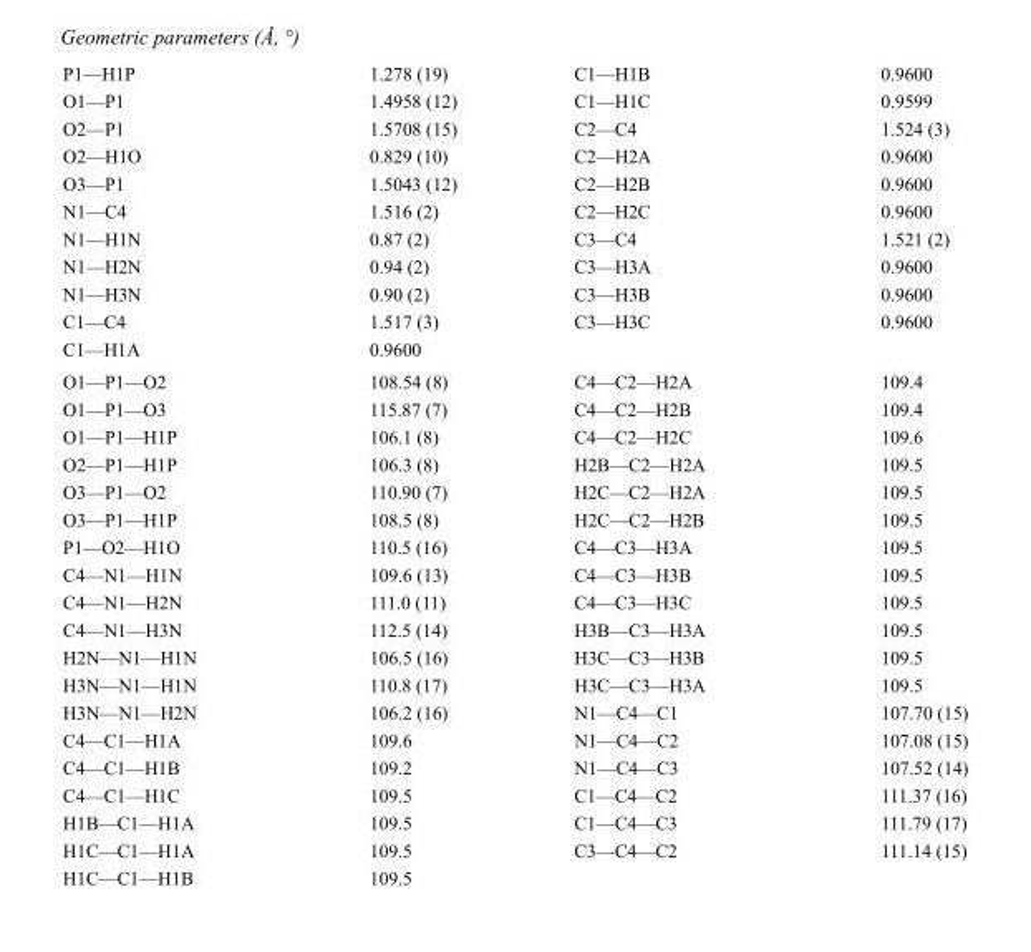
<table><tbody><tr><td>P1—H1P</td><td>1.278 (19)</td><td>C1—H1B</td><td>0.9600</td></tr><tr><td>O1—P1</td><td>1.4958 (12)</td><td>C1—H1C</td><td>0.9599</td></tr><tr><td>O2—P1</td><td>1.5708 (15)</td><td>C2—C4</td><td>1.524 (3)</td></tr><tr><td>O2—H1O</td><td>0.829 (10)</td><td>C2—H2A</td><td>0.9600</td></tr><tr><td>O3—P1</td><td>1.5043 (12)</td><td>C2—H2B</td><td>0.9600</td></tr><tr><td>N1—C4</td><td>1.516 (2)</td><td>C2—H2C</td><td>0.9600</td></tr><tr><td>N1—H1N</td><td>0.87 (2)</td><td>C3—C4</td><td>1.521 (2)</td></tr><tr><td>N1—H2N</td><td>0.94 (2)</td><td>C3—H3A</td><td>0.9600</td></tr><tr><td>N1—H3N</td><td>0.90 (2)</td><td>C3—H3B</td><td>0.9600</td></tr><tr><td>C1—C4</td><td>1.517 (3)</td><td>C3—H3C</td><td>0.9600</td></tr><tr><td>C1—H1A</td><td>0.9600</td><td></td><td></td></tr><tr><td>O1—P1—O2</td><td>108.54 (8)</td><td>C4—C2—H2A</td><td>109.4</td></tr><tr><td>O1—P1—O3</td><td>115.87 (7)</td><td>C4—C2—H2B</td><td>109.4</td></tr><tr><td>O1—P1—H1P</td><td>106.1 (8)</td><td>C4—C2—H2C</td><td>109.6</td></tr><tr><td>O2—P1—H1P</td><td>106.3 (8)</td><td>H2B—C2—H2A</td><td>109.5</td></tr><tr><td>O3—P1—O2</td><td>110.90 (7)</td><td>H2C—C2—H2A</td><td>109.5</td></tr><tr><td>O3—P1—H1P</td><td>108.5 (8)</td><td>H2C—C2—H2B</td><td>109.5</td></tr><tr><td>P1—O2—H1O</td><td>110.5 (16)</td><td>C4—C3—H3A</td><td>109.5</td></tr><tr><td>C4—N1—H1N</td><td>109.6 (13)</td><td>C4—C3—H3B</td><td>109.5</td></tr><tr><td>C4—N1—H2N</td><td>111.0 (11)</td><td>C4—C3—H3C</td><td>109.5</td></tr><tr><td>C4—N1—H3N</td><td>112.5 (14)</td><td>H3B—C3—H3A</td><td>109.5</td></tr><tr><td>H2N—N1—H1N</td><td>106.5 (16)</td><td>H3C—C3—H3B</td><td>109.5</td></tr><tr><td>H3N—N1—H1N</td><td>110.8 (17)</td><td>H3C—C3—H3A</td><td>109.5</td></tr><tr><td>H3N—N1—H2N</td><td>106.2 (16)</td><td>N1—C4—C1</td><td>107.70 (15)</td></tr><tr><td>C4—C1—H1A</td><td>109.6</td><td>N1—C4—C2</td><td>107.08 (15)</td></tr><tr><td>C4—C1—H1B</td><td>109.2</td><td>N1—C4—C3</td><td>107.52 (14)</td></tr><tr><td>C4—C1—H1C</td><td>109.5</td><td>C1—C4—C2</td><td>111.37 (16)</td></tr><tr><td>H1B—C1—H1A</td><td>109.5</td><td>C1—C4—C3</td><td>111.79 (17)</td></tr><tr><td>H1C—C1—H1A</td><td>109.5</td><td>C3—C4—C2</td><td>111.14 (15)</td></tr><tr><td>H1C—C1—H1B</td><td>109.5</td><td></td><td></td></tr></tbody></table>